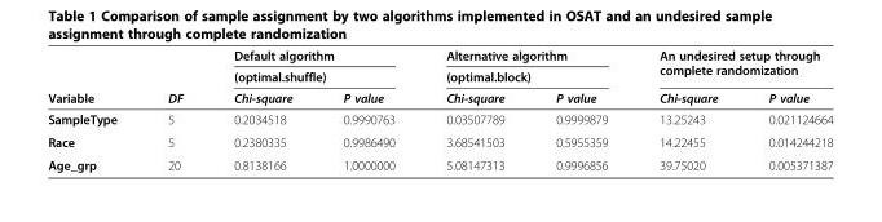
<table><thead><tr><td rowspan="3">Variable</td><td rowspan="3">DF</td><td rowspan="2" colspan="2">Default algorithm (optimal.shuffle)</td><td rowspan="2" colspan="2">Alternative algorithm (optimal.block)</td><td rowspan="2" colspan="2">An undesired setup through complete randomization</td></tr><tr></tr><tr><td>Chi-square</td><td>P value</td><td>Chi-square</td><td>P value</td><td>Chi-square</td><td>P value</td></tr></thead><tbody><tr><td>SampleType</td><td>5</td><td>0.2034518</td><td>0.9990763</td><td>0.03507789</td><td>0.9999879</td><td>13.25243</td><td>0.021124664</td></tr><tr><td>Race</td><td>5</td><td>0.2380335</td><td>0.9986490</td><td>3.68541503</td><td>0.5955359</td><td>14.22455</td><td>0.014244218</td></tr><tr><td>Age_grp</td><td>20</td><td>0.8138166</td><td>1.0000000</td><td>5.08147313</td><td>0.9996856</td><td>39.75020</td><td>0.005371387</td></tr></tbody></table>